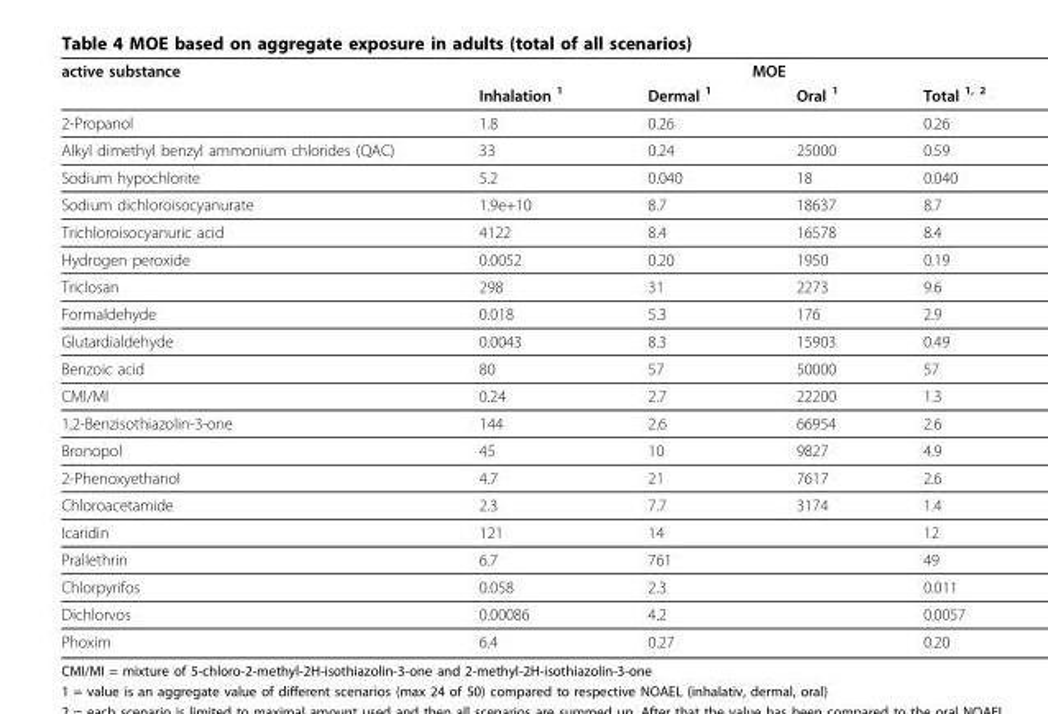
<table><thead><tr><td rowspan="2">active substance</td><td colspan="4">MOE</td></tr><tr><td>Inhalation <sup>1</sup></td><td>Dermal <sup>1</sup></td><td>Oral <sup>1</sup></td><td>Total <sup>1, 2</sup></td></tr></thead><tbody><tr><td>2-Propanol</td><td>1.8</td><td>0.26</td><td></td><td>0.26</td></tr><tr><td>Alkyl dimethyl benzyl ammonium chlorides (QAC)</td><td>33</td><td>0.24</td><td>25000</td><td>0.59</td></tr><tr><td>Sodium hypochlorite</td><td>5.2</td><td>0.040</td><td>18</td><td>0.040</td></tr><tr><td>Sodium dichloroisocyanurate</td><td>1.9e+10</td><td>8.7</td><td>18637</td><td>8.7</td></tr><tr><td>Trichloroisocyanuric acid</td><td>4122</td><td>8.4</td><td>16578</td><td>8.4</td></tr><tr><td>Hydrogen peroxide</td><td>0.0052</td><td>0.20</td><td>1950</td><td>0.19</td></tr><tr><td>Triclosan</td><td>298</td><td>31</td><td>2273</td><td>9.6</td></tr><tr><td>Formaldehyde</td><td>0.018</td><td>5.3</td><td>176</td><td>2.9</td></tr><tr><td>Glutardialdehyde</td><td>0.0043</td><td>8.3</td><td>15903</td><td>0.49</td></tr><tr><td>Benzoic acid</td><td>80</td><td>57</td><td>50000</td><td>57</td></tr><tr><td>CMI/MI</td><td>0.24</td><td>2.7</td><td>22200</td><td>1.3</td></tr><tr><td>1,2-Benzisothiazolin-3-one</td><td>144</td><td>2.6</td><td>66954</td><td>2.6</td></tr><tr><td>Bronopol</td><td>45</td><td>10</td><td>9827</td><td>4.9</td></tr><tr><td>2-Phenoxyethanol</td><td>4.7</td><td>21</td><td>7617</td><td>2.6</td></tr><tr><td>Chloroacetamide</td><td>2.3</td><td>7.7</td><td>3174</td><td>1.4</td></tr><tr><td>Icaridin</td><td>121</td><td>14</td><td></td><td>12</td></tr><tr><td>Prallethrin</td><td>6.7</td><td>761</td><td></td><td>49</td></tr><tr><td>Chlorpyrifos</td><td>0.058</td><td>2.3</td><td></td><td>0.011</td></tr><tr><td>Dichlorvos</td><td>0.00086</td><td>4.2</td><td></td><td>0.0057</td></tr><tr><td>Phoxim</td><td>6.4</td><td>0.27</td><td></td><td>0.20</td></tr></tbody></table>